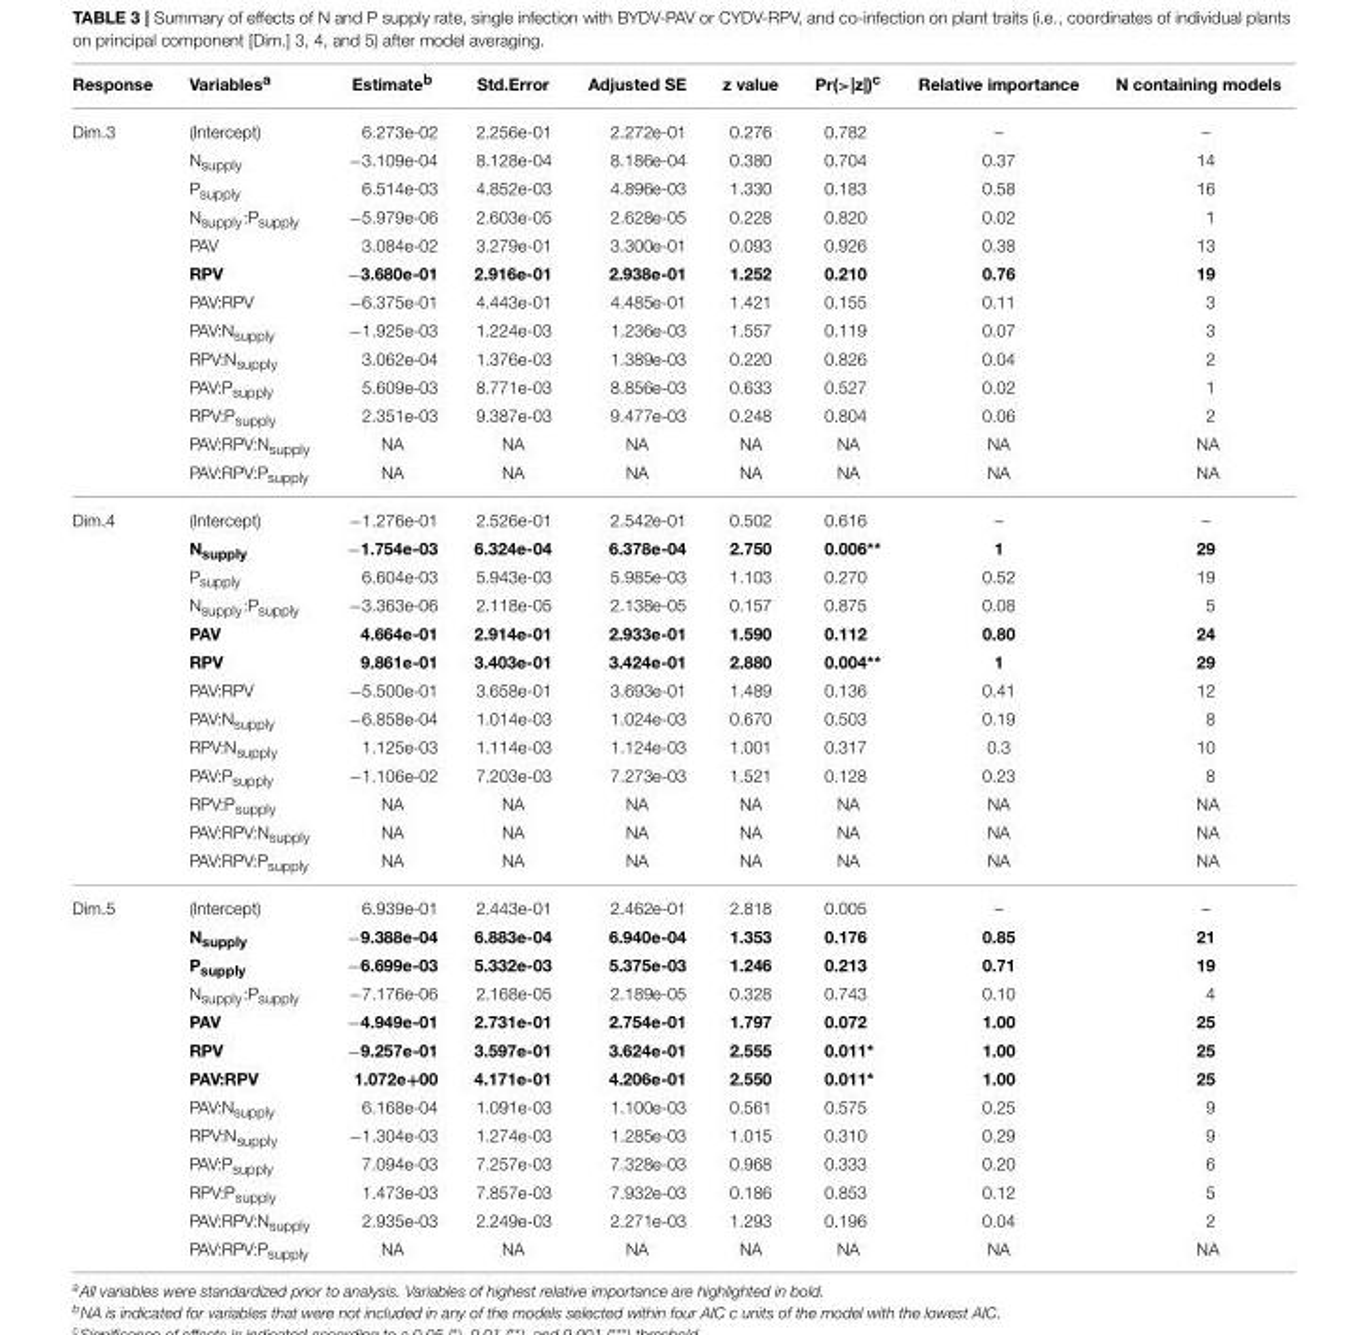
<table><thead><tr><td>Response</td><td>Variables<sup>a</sup></td><td>Estimate<sup>b</sup></td><td>Std.Error</td><td>Adjusted SE</td><td>z value</td><td>Pr(&gt;|z|)<sup>c</sup></td><td>Relative importance</td><td>N containing models</td></tr></thead><tbody><tr><td rowspan="13">Dim.3</td><td>(Intercept)</td><td>6.273e-02</td><td>2.256e-01</td><td>2.272e-01</td><td>0.276</td><td>0.782</td><td>–</td><td>–</td></tr><tr><td>N<sub>supply</sub></td><td>−3.109e-04</td><td>8.128e-04</td><td>8.186e-04</td><td>0.380</td><td>0.704</td><td>0.37</td><td>14</td></tr><tr><td>P<sub>supply</sub></td><td>6.514e-03</td><td>4.852e-03</td><td>4.896e-03</td><td>1.330</td><td>0.183</td><td>0.58</td><td>16</td></tr><tr><td>N<sub>supply</sub>:P<sub>supply</sub></td><td>−5.979e-06</td><td>2.603e-05</td><td>2.628e-05</td><td>0.228</td><td>0.820</td><td>0.02</td><td>1</td></tr><tr><td>PAV</td><td>3.084e-02</td><td>3.279e-01</td><td>3.300e-01</td><td>0.093</td><td>0.926</td><td>0.38</td><td>13</td></tr><tr><td>RPV</td><td>−3.680e-01</td><td>2.916e-01</td><td>2.938e-01</td><td>1.252</td><td>0.210</td><td>0.76</td><td>19</td></tr><tr><td>PAV:RPV</td><td>−6.375e-01</td><td>4.443e-01</td><td>4.485e-01</td><td>1.421</td><td>0.155</td><td>0.11</td><td>3</td></tr><tr><td>PAV:N<sub>supply</sub></td><td>−1.925e-03</td><td>1.224e-03</td><td>1.236e-03</td><td>1.557</td><td>0.119</td><td>0.07</td><td>3</td></tr><tr><td>RPV:N<sub>supply</sub></td><td>3.062e-04</td><td>1.376e-03</td><td>1.389e-03</td><td>0.220</td><td>0.826</td><td>0.04</td><td>2</td></tr><tr><td>PAV:P<sub>supply</sub></td><td>5.609e-03</td><td>8.771e-03</td><td>8.856e-03</td><td>0.633</td><td>0.527</td><td>0.02</td><td>1</td></tr><tr><td>RPV:P<sub>supply</sub></td><td>2.351e-03</td><td>9.387e-03</td><td>9.477e-03</td><td>0.248</td><td>0.804</td><td>0.06</td><td>2</td></tr><tr><td>PAV:RPV:N<sub>supply</sub></td><td>NA</td><td>NA</td><td>NA</td><td>NA</td><td>NA</td><td>NA</td><td>NA</td></tr><tr><td>PAV:RPV:P<sub>supply</sub></td><td>NA</td><td>NA</td><td>NA</td><td>NA</td><td>NA</td><td>NA</td><td>NA</td></tr><tr><td rowspan="13">Dim.4</td><td>(Intercept)</td><td>−1.276e-01</td><td>2.526e-01</td><td>2.542e-01</td><td>0.502</td><td>0.616</td><td>–</td><td>–</td></tr><tr><td>N<sub>supply</sub></td><td>−1.754e-03</td><td>6.324e-04</td><td>6.378e-04</td><td>2.750</td><td>0.006**</td><td>1</td><td>29</td></tr><tr><td>P<sub>supply</sub></td><td>6.604e-03</td><td>5.943e-03</td><td>5.985e-03</td><td>1.103</td><td>0.270</td><td>0.52</td><td>19</td></tr><tr><td>N<sub>supply</sub>:P<sub>supply</sub></td><td>−3.363e-06</td><td>2.118e-05</td><td>2.138e-05</td><td>0.157</td><td>0.875</td><td>0.08</td><td>5</td></tr><tr><td>PAV</td><td>4.664e-01</td><td>2.914e-01</td><td>2.933e-01</td><td>1.590</td><td>0.112</td><td>0.80</td><td>24</td></tr><tr><td>RPV</td><td>9.861e-01</td><td>3.403e-01</td><td>3.424e-01</td><td>2.880</td><td>0.004**</td><td>1</td><td>29</td></tr><tr><td>PAV:RPV</td><td>−5.500e-01</td><td>3.658e-01</td><td>3.693e-01</td><td>1.489</td><td>0.136</td><td>0.41</td><td>12</td></tr><tr><td>PAV:N<sub>supply</sub></td><td>−6.858e-04</td><td>1.014e-03</td><td>1.024e-03</td><td>0.670</td><td>0.503</td><td>0.19</td><td>8</td></tr><tr><td>RPV:N<sub>supply</sub></td><td>1.125e-03</td><td>1.114e-03</td><td>1.124e-03</td><td>1.001</td><td>0.317</td><td>0.3</td><td>10</td></tr><tr><td>PAV:P<sub>supply</sub></td><td>−1.106e-02</td><td>7.203e-03</td><td>7.273e-03</td><td>1.521</td><td>0.128</td><td>0.23</td><td>8</td></tr><tr><td>RPV:P<sub>supply</sub></td><td>NA</td><td>NA</td><td>NA</td><td>NA</td><td>NA</td><td>NA</td><td>NA</td></tr><tr><td>PAV:RPV:N<sub>supply</sub></td><td>NA</td><td>NA</td><td>NA</td><td>NA</td><td>NA</td><td>NA</td><td>NA</td></tr><tr><td>PAV:RPV:P<sub>supply</sub></td><td>NA</td><td>NA</td><td>NA</td><td>NA</td><td>NA</td><td>NA</td><td>NA</td></tr><tr><td rowspan="13">Dim.5</td><td>(Intercept)</td><td>6.939e-01</td><td>2.443e-01</td><td>2.462e-01</td><td>2.818</td><td>0.005</td><td>–</td><td>–</td></tr><tr><td>N<sub>supply</sub></td><td>−9.388e-04</td><td>6.883e-04</td><td>6.940e-04</td><td>1.353</td><td>0.176</td><td>0.85</td><td>21</td></tr><tr><td>P<sub>supply</sub></td><td>−6.699e-03</td><td>5.332e-03</td><td>5.375e-03</td><td>1.246</td><td>0.213</td><td>0.71</td><td>19</td></tr><tr><td>N<sub>supply</sub>:P<sub>supply</sub></td><td>−7.176e-06</td><td>2.168e-05</td><td>2.189e-05</td><td>0.328</td><td>0.743</td><td>0.10</td><td>4</td></tr><tr><td>PAV</td><td>−4.949e-01</td><td>2.731e-01</td><td>2.754e-01</td><td>1.797</td><td>0.072</td><td>1.00</td><td>25</td></tr><tr><td>RPV</td><td>−9.257e-01</td><td>3.597e-01</td><td>3.624e-01</td><td>2.555</td><td>0.011*</td><td>1.00</td><td>25</td></tr><tr><td>PAV:RPV</td><td>1.072e+00</td><td>4.171e-01</td><td>4.206e-01</td><td>2.550</td><td>0.011*</td><td>1.00</td><td>25</td></tr><tr><td>PAV:N<sub>supply</sub></td><td>6.168e-04</td><td>1.091e-03</td><td>1.100e-03</td><td>0.561</td><td>0.575</td><td>0.25</td><td>9</td></tr><tr><td>RPV:N<sub>supply</sub></td><td>−1.304e-03</td><td>1.274e-03</td><td>1.285e-03</td><td>1.015</td><td>0.310</td><td>0.29</td><td>9</td></tr><tr><td>PAV:P<sub>supply</sub></td><td>7.094e-03</td><td>7.257e-03</td><td>7.328e-03</td><td>0.968</td><td>0.333</td><td>0.20</td><td>6</td></tr><tr><td>RPV:P<sub>supply</sub></td><td>1.473e-03</td><td>7.857e-03</td><td>7.932e-03</td><td>0.186</td><td>0.853</td><td>0.12</td><td>5</td></tr><tr><td>PAV:RPV:N<sub>supply</sub></td><td>2.935e-03</td><td>2.249e-03</td><td>2.271e-03</td><td>1.293</td><td>0.196</td><td>0.04</td><td>2</td></tr><tr><td>PAV:RPV:P<sub>supply</sub></td><td>NA</td><td>NA</td><td>NA</td><td>NA</td><td>NA</td><td>NA</td><td>NA</td></tr></tbody></table>